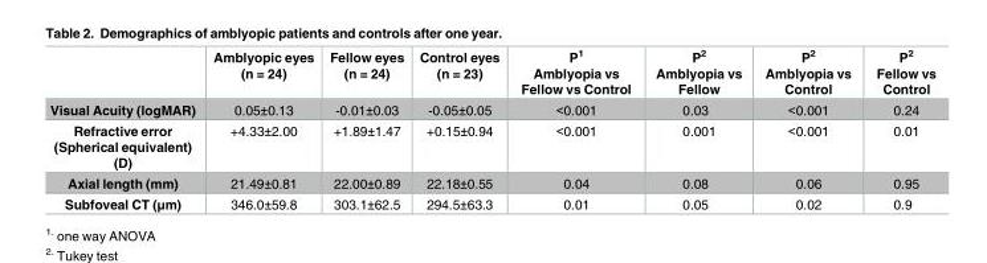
<table><thead><tr><td></td><td>Amblyopic eyes (n = 24)</td><td>Fellow eyes (n = 24)</td><td>Control eyes (n = 23)</td><td>P<sup>1</sup> Amblyopia vs Fellow vs Control</td><td>P<sup>2</sup> Amblyopia vs Fellow</td><td>P<sup>2</sup> Amblyopia vs Control</td><td>P<sup>2</sup> Fellow vs Control</td></tr></thead><tbody><tr><td>Visual Acuity (logMAR)</td><td>0.05±0.13</td><td>-0.01±0.03</td><td>-0.05±0.05</td><td>&lt;0.001</td><td>0.03</td><td>&lt;0.001</td><td>0.24</td></tr><tr><td>Refractive error (Spherical equivalent) (D)</td><td>+4.33±2.00</td><td>+1.89±1.47</td><td>+0.15±0.94</td><td>&lt;0.001</td><td>0.001</td><td>&lt;0.001</td><td>0.01</td></tr><tr><td>Axial length (mm)</td><td>21.49±0.81</td><td>22.00±0.89</td><td>22.18±0.55</td><td>0.04</td><td>0.08</td><td>0.06</td><td>0.95</td></tr><tr><td>Subfoveal CT (μm)</td><td>346.0±59.8</td><td>303.1±62.5</td><td>294.5±63.3</td><td>0.01</td><td>0.05</td><td>0.02</td><td>0.9</td></tr></tbody></table>